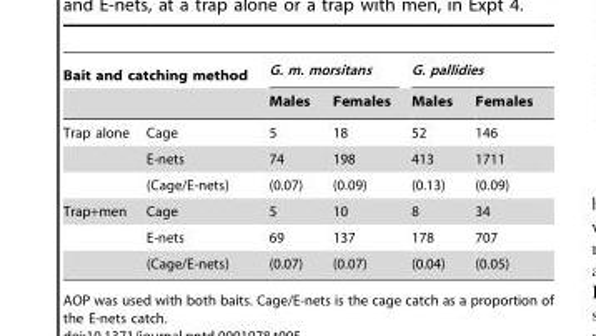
<table><thead><tr><td colspan="2">Bait and catching method</td><td colspan="2">G. m. morsitans</td><td colspan="2">G. pallidies</td></tr><tr><td></td><td></td><td>Males</td><td>Females</td><td>Males</td><td>Females</td></tr></thead><tbody><tr><td rowspan="3">Trap alone</td><td>Cage</td><td>5</td><td>18</td><td>52</td><td>146</td></tr><tr><td>E-nets</td><td>74</td><td>198</td><td>413</td><td>1711</td></tr><tr><td>(Cage/E-nets)</td><td>(0.07)</td><td>(0.09)</td><td>(0.13)</td><td>(0.09)</td></tr><tr><td rowspan="3">Trap+men</td><td>Cage</td><td>5</td><td>10</td><td>8</td><td>34</td></tr><tr><td>E-nets</td><td>69</td><td>137</td><td>178</td><td>707</td></tr><tr><td>(Cage/E-nets)</td><td>(0.07)</td><td>(0.07)</td><td>(0.04)</td><td>(0.05)</td></tr></tbody></table>